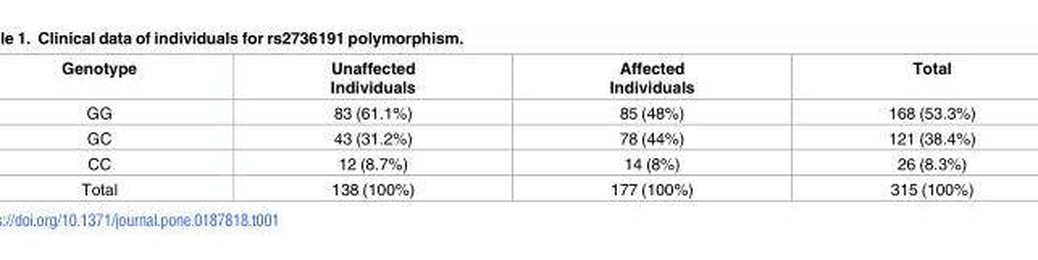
<table><thead><tr><td>Genotype</td><td>Unaffected Individuals</td><td>Affected Individuals</td><td>Total</td></tr></thead><tbody><tr><td>GG</td><td>83 (61.1%)</td><td>85 (48%)</td><td>168 (53.3%)</td></tr><tr><td>GC</td><td>43 (31.2%)</td><td>78 (44%)</td><td>121 (38.4%)</td></tr><tr><td>CC</td><td>12 (8.7%)</td><td>14 (8%)</td><td>26 (8.3%)</td></tr><tr><td>Total</td><td>138 (100%)</td><td>177 (100%)</td><td>315 (100%)</td></tr></tbody></table>